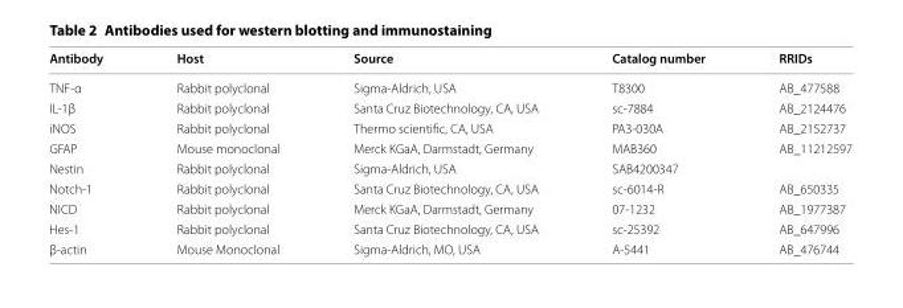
<table><thead><tr><td>Antibody</td><td>Host</td><td>Source</td><td>Catalog number</td><td>RRIDs</td></tr></thead><tbody><tr><td>TNF‑α</td><td>Rabbit polyclonal</td><td>Sigma‑Aldrich, USA</td><td>T8300</td><td>AB_477588</td></tr><tr><td>IL‑1β</td><td>Rabbit polyclonal</td><td>Santa Cruz Biotechnology, CA, USA</td><td>sc‑7884</td><td>AB_2124476</td></tr><tr><td>iNOS</td><td>Rabbit polyclonal</td><td>Thermo scientific, CA, USA</td><td>PA3‑030A</td><td>AB_2152737</td></tr><tr><td>GFAP</td><td>Mouse monoclonal</td><td>Merck KGaA, Darmstadt, Germany</td><td>MAB360</td><td>AB_11212597</td></tr><tr><td>Nestin</td><td>Rabbit polyclonal</td><td>Sigma‑Aldrich, USA</td><td>SAB4200347</td><td></td></tr><tr><td>Notch‑1</td><td>Rabbit polyclonal</td><td>Santa Cruz Biotechnology, CA, USA</td><td>sc‑6014‑R</td><td>AB_650335</td></tr><tr><td>NICD</td><td>Rabbit polyclonal</td><td>Merck KGaA, Darmstadt, Germany</td><td>07‑1232</td><td>AB_1977387</td></tr><tr><td>Hes‑1</td><td>Rabbit polyclonal</td><td>Santa Cruz Biotechnology, CA, USA</td><td>sc‑25392</td><td>AB_647996</td></tr><tr><td>β‑actin</td><td>Mouse Monoclonal</td><td>Sigma‑Aldrich, MO, USA</td><td>A‑5441</td><td>AB_476744</td></tr></tbody></table>